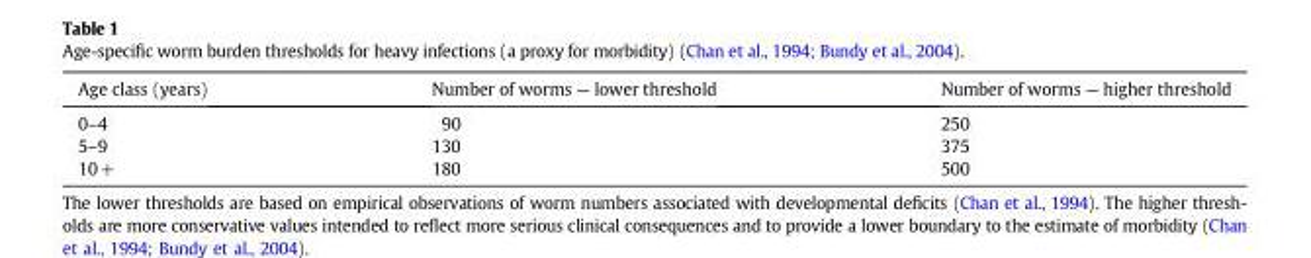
<table><thead><tr><td>Age class (years)</td><td>Number of worms — lower threshold</td><td>Number of worms — higher threshold</td></tr></thead><tbody><tr><td>0–4</td><td>90</td><td>250</td></tr><tr><td>5–9</td><td>130</td><td>375</td></tr><tr><td>10+</td><td>180</td><td>500</td></tr></tbody></table>